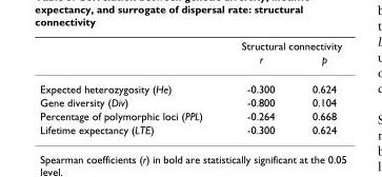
<table><thead><tr><td rowspan="2"></td><td colspan="2">Structural connectivity</td></tr><tr><td>r</td><td>p</td></tr></thead><tbody><tr><td>Expected heterozygosity (He)</td><td>-0.300</td><td>0.624</td></tr><tr><td>Gene diversity (Div)</td><td>-0.800</td><td>0.104</td></tr><tr><td>Percentage of polymorphic loci (PPL)</td><td>-0.264</td><td>0.668</td></tr><tr><td>Lifetime expectancy (LTE)</td><td>-0.300</td><td>0.624</td></tr></tbody></table>